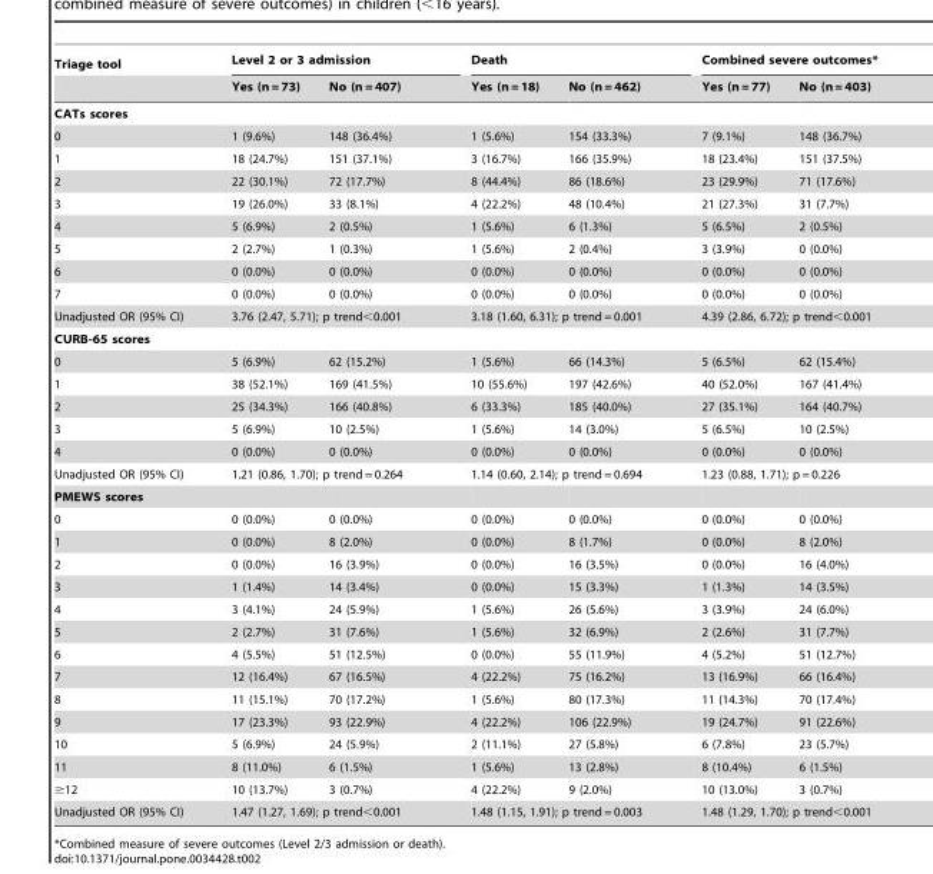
<table><thead><tr><td rowspan="2">Triage tool</td><td colspan="2">Level 2 or 3 admission</td><td colspan="2">Death</td><td colspan="2">Combined severe outcomes*</td></tr><tr><td>Yes (n = 73)</td><td>No (n = 407)</td><td>Yes (n = 18)</td><td>No (n = 462)</td><td>Yes (n = 77)</td><td>No (n = 403)</td></tr></thead><tbody><tr><td colspan="7">CATs scores</td></tr><tr><td>0</td><td>1 (9.6%)</td><td>148 (36.4%)</td><td>1 (5.6%)</td><td>154 (33.3%)</td><td>7 (9.1%)</td><td>148 (36.7%)</td></tr><tr><td>1</td><td>18 (24.7%)</td><td>151 (37.1%)</td><td>3 (16.7%)</td><td>166 (35.9%)</td><td>18 (23.4%)</td><td>151 (37.5%)</td></tr><tr><td>2</td><td>22 (30.1%)</td><td>72 (17.7%)</td><td>8 (44.4%)</td><td>86 (18.6%)</td><td>23 (29.9%)</td><td>71 (17.6%)</td></tr><tr><td>3</td><td>19 (26.0%)</td><td>33 (8.1%)</td><td>4 (22.2%)</td><td>48 (10.4%)</td><td>21 (27.3%)</td><td>31 (7.7%)</td></tr><tr><td>4</td><td>5 (6.9%)</td><td>2 (0.5%)</td><td>1 (5.6%)</td><td>6 (1.3%)</td><td>5 (6.5%)</td><td>2 (0.5%)</td></tr><tr><td>5</td><td>2 (2.7%)</td><td>1 (0.3%)</td><td>1 (5.6%)</td><td>2 (0.4%)</td><td>3 (3.9%)</td><td>0 (0.0%)</td></tr><tr><td>6</td><td>0 (0.0%)</td><td>0 (0.0%)</td><td>0 (0.0%)</td><td>0 (0.0%)</td><td>0 (0.0%)</td><td>0 (0.0%)</td></tr><tr><td>7</td><td>0 (0.0%)</td><td>0 (0.0%)</td><td>0 (0.0%)</td><td>0 (0.0%)</td><td>0 (0.0%)</td><td>0 (0.0%)</td></tr><tr><td>Unadjusted OR (95% CI)</td><td colspan="2">3.76 (2.47, 5.71); p trend&lt;0.001</td><td colspan="2">3.18 (1.60, 6.31); p trend = 0.001</td><td colspan="2">4.39 (2.86, 6.72); p trend&lt;0.001</td></tr><tr><td colspan="7">CURB-65 scores</td></tr><tr><td>0</td><td>5 (6.9%)</td><td>62 (15.2%)</td><td>1 (5.6%)</td><td>66 (14.3%)</td><td>5 (6.5%)</td><td>62 (15.4%)</td></tr><tr><td>1</td><td>38 (52.1%)</td><td>169 (41.5%)</td><td>10 (55.6%)</td><td>197 (42.6%)</td><td>40 (52.0%)</td><td>167 (41.4%)</td></tr><tr><td>2</td><td>25 (34.3%)</td><td>166 (40.8%)</td><td>6 (33.3%)</td><td>185 (40.0%)</td><td>27 (35.1%)</td><td>164 (40.7%)</td></tr><tr><td>3</td><td>5 (6.9%)</td><td>10 (2.5%)</td><td>1 (5.6%)</td><td>14 (3.0%)</td><td>5 (6.5%)</td><td>10 (2.5%)</td></tr><tr><td>4</td><td>0 (0.0%)</td><td>0 (0.0%)</td><td>0 (0.0%)</td><td>0 (0.0%)</td><td>0 (0.0%)</td><td>0 (0.0%)</td></tr><tr><td>Unadjusted OR (95% CI)</td><td colspan="2">1.21 (0.86, 1.70); p trend = 0.264</td><td colspan="2">1.14 (0.60, 2.14); p trend = 0.694</td><td colspan="2">1.23 (0.88, 1.71); p = 0.226</td></tr><tr><td colspan="7">PMEWS scores</td></tr><tr><td>0</td><td>0 (0.0%)</td><td>0 (0.0%)</td><td>0 (0.0%)</td><td>0 (0.0%)</td><td>0 (0.0%)</td><td>0 (0.0%)</td></tr><tr><td>1</td><td>0 (0.0%)</td><td>8 (2.0%)</td><td>0 (0.0%)</td><td>8 (1.7%)</td><td>0 (0.0%)</td><td>8 (2.0%)</td></tr><tr><td>2</td><td>0 (0.0%)</td><td>16 (3.9%)</td><td>0 (0.0%)</td><td>16 (3.5%)</td><td>0 (0.0%)</td><td>16 (4.0%)</td></tr><tr><td>3</td><td>1 (1.4%)</td><td>14 (3.4%)</td><td>0 (0.0%)</td><td>15 (3.3%)</td><td>1 (1.3%)</td><td>14 (3.5%)</td></tr><tr><td>4</td><td>3 (4.1%)</td><td>24 (5.9%)</td><td>1 (5.6%)</td><td>26 (5.6%)</td><td>3 (3.9%)</td><td>24 (6.0%)</td></tr><tr><td>5</td><td>2 (2.7%)</td><td>31 (7.6%)</td><td>1 (5.6%)</td><td>32 (6.9%)</td><td>2 (2.6%)</td><td>31 (7.7%)</td></tr><tr><td>6</td><td>4 (5.5%)</td><td>51 (12.5%)</td><td>0 (0.0%)</td><td>55 (11.9%)</td><td>4 (5.2%)</td><td>51 (12.7%)</td></tr><tr><td>7</td><td>12 (16.4%)</td><td>67 (16.5%)</td><td>4 (22.2%)</td><td>75 (16.2%)</td><td>13 (16.9%)</td><td>66 (16.4%)</td></tr><tr><td>8</td><td>11 (15.1%)</td><td>70 (17.2%)</td><td>1 (5.6%)</td><td>80 (17.3%)</td><td>11 (14.3%)</td><td>70 (17.4%)</td></tr><tr><td>9</td><td>17 (23.3%)</td><td>93 (22.9%)</td><td>4 (22.2%)</td><td>106 (22.9%)</td><td>19 (24.7%)</td><td>91 (22.6%)</td></tr><tr><td>10</td><td>5 (6.9%)</td><td>24 (5.9%)</td><td>2 (11.1%)</td><td>27 (5.8%)</td><td>6 (7.8%)</td><td>23 (5.7%)</td></tr><tr><td>11</td><td>8 (11.0%)</td><td>6 (1.5%)</td><td>1 (5.6%)</td><td>13 (2.8%)</td><td>8 (10.4%)</td><td>6 (1.5%)</td></tr><tr><td>≥12</td><td>10 (13.7%)</td><td>3 (0.7%)</td><td>4 (22.2%)</td><td>9 (2.0%)</td><td>10 (13.0%)</td><td>3 (0.7%)</td></tr><tr><td>Unadjusted OR (95% CI)</td><td colspan="2">1.47 (1.27, 1.69); p trend&lt;0.001</td><td colspan="2">1.48 (1.15, 1.91); p trend = 0.003</td><td colspan="2">1.48 (1.29, 1.70); p trend&lt;0.001</td></tr></tbody></table>